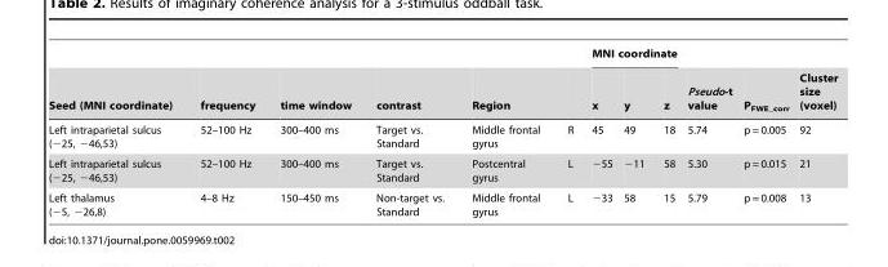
<table><thead><tr><td rowspan="2">Seed (MNI coordinate)</td><td rowspan="2">frequency</td><td rowspan="2">time window</td><td rowspan="2">contrast</td><td rowspan="2">Region</td><td rowspan="2"></td><td colspan="3">MNI coordinate</td><td rowspan="2">Pseudo-t value</td><td rowspan="2">P<sub>FWE_corr</sub></td><td rowspan="2">Cluster size (voxel)</td></tr><tr><td>x</td><td>y</td><td>z</td></tr></thead><tbody><tr><td>Left intraparietal sulcus (−25, −46,53)</td><td>52–100 Hz</td><td>300–400 ms</td><td>Target vs. Standard</td><td>Middle frontal gyrus</td><td>R</td><td>45</td><td>49</td><td>18</td><td>5.74</td><td>p = 0.005</td><td>92</td></tr><tr><td>Left intraparietal sulcus (−25, −46,53)</td><td>52–100 Hz</td><td>300–400 ms</td><td>Target vs. Standard</td><td>Postcentral gyrus</td><td>L</td><td>−55</td><td>−11</td><td>58</td><td>5.30</td><td>p = 0.015</td><td>21</td></tr><tr><td>Left thalamus (−5, −26,8)</td><td>4–8 Hz</td><td>150–450 ms</td><td>Non-target vs. Standard</td><td>Middle frontal gyrus</td><td>L</td><td>−33</td><td>58</td><td>15</td><td>5.79</td><td>p = 0.008</td><td>13</td></tr></tbody></table>